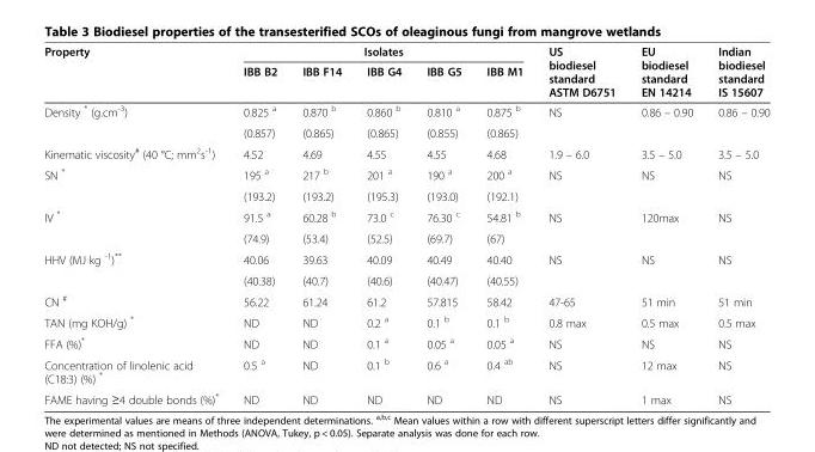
<table><thead><tr><td rowspan="2">Property</td><td colspan="5">Isolates</td><td rowspan="2">US biodiesel standard ASTM D6751</td><td rowspan="2">EU biodiesel standard EN 14214</td><td rowspan="2">Indian biodiesel standard IS 15607</td></tr><tr><td>IBB B2</td><td>IBB F14</td><td>IBB G4</td><td>IBB G5</td><td>IBB M1</td></tr></thead><tbody><tr><td rowspan="2">Density * (g.cm<sup>-3</sup>)</td><td>0.825 <sup>a</sup></td><td>0.870 <sup>b</sup></td><td>0.860 <sup>b</sup></td><td>0.810 <sup>a</sup></td><td>0.875 <sup>b</sup></td><td rowspan="2">NS</td><td rowspan="2">0.86 – 0.90</td><td rowspan="2">0.86 – 0.90</td></tr><tr><td>(0.857)</td><td>(0.865)</td><td>(0.865)</td><td>(0.855)</td><td>(0.865)</td></tr><tr><td>Kinematic viscosity<sup>#</sup> (40 °C; mm<sup>2</sup>s<sup>-1</sup>)</td><td>4.52</td><td>4.69</td><td>4.55</td><td>4.55</td><td>4.68</td><td>1.9 – 6.0</td><td>3.5 – 5.0</td><td>3.5 – 5.0</td></tr><tr><td rowspan="2">SN *</td><td>195 <sup>a</sup></td><td>217 <sup>b</sup></td><td>201 <sup>a</sup></td><td>190 <sup>a</sup></td><td>200 <sup>a</sup></td><td rowspan="2">NS</td><td rowspan="2">NS</td><td rowspan="2">NS</td></tr><tr><td>(193.2)</td><td>(193.2)</td><td>(195.3)</td><td>(193.0)</td><td>(192.1)</td></tr><tr><td rowspan="2">IV *</td><td>91.5 <sup>a</sup></td><td>60.28 <sup>b</sup></td><td>73.0 <sup>c</sup></td><td>76.30 <sup>c</sup></td><td>54.81 <sup>b</sup></td><td rowspan="2">NS</td><td rowspan="2">120max</td><td rowspan="2">NS</td></tr><tr><td>(74.9)</td><td>(53.4)</td><td>(52.5)</td><td>(69.7)</td><td>(67)</td></tr><tr><td rowspan="2">HHV (MJ kg <sup>-1</sup>)**</td><td>40.06</td><td>39.63</td><td>40.09</td><td>40.49</td><td>40.40</td><td rowspan="2">NS</td><td rowspan="2">NS</td><td rowspan="2">NS</td></tr><tr><td>(40.38)</td><td>(40.7)</td><td>(40.6)</td><td>(40.47)</td><td>(40.55)</td></tr><tr><td>CN <sup>#</sup></td><td>56.22</td><td>61.24</td><td>61.2</td><td>57.815</td><td>58.42</td><td>47-65</td><td>51 min</td><td>51 min</td></tr><tr><td>TAN (mg KOH/g) *</td><td>ND</td><td>ND</td><td>0.2 <sup>a</sup></td><td>0.1 <sup>b</sup></td><td>0.1 <sup>b</sup></td><td>0.8 max</td><td>0.5 max</td><td>0.5 max</td></tr><tr><td>FFA (%)*</td><td>ND</td><td>ND</td><td>0.1 <sup>a</sup></td><td>0.05 <sup>a</sup></td><td>0.05 <sup>a</sup></td><td>NS</td><td>NS</td><td>NS</td></tr><tr><td>Concentration of linolenic acid (C18:3) (%) *</td><td>0.5 <sup>a</sup></td><td>ND</td><td>0.1 <sup>b</sup></td><td>0.6 <sup>a</sup></td><td>0.4 <sup>ab</sup></td><td>NS</td><td>12 max</td><td>NS</td></tr><tr><td>FAME having ≥4 double bonds (%)*</td><td>ND</td><td>ND</td><td>ND</td><td>ND</td><td>ND</td><td>NS</td><td>1 max</td><td>NS</td></tr></tbody></table>